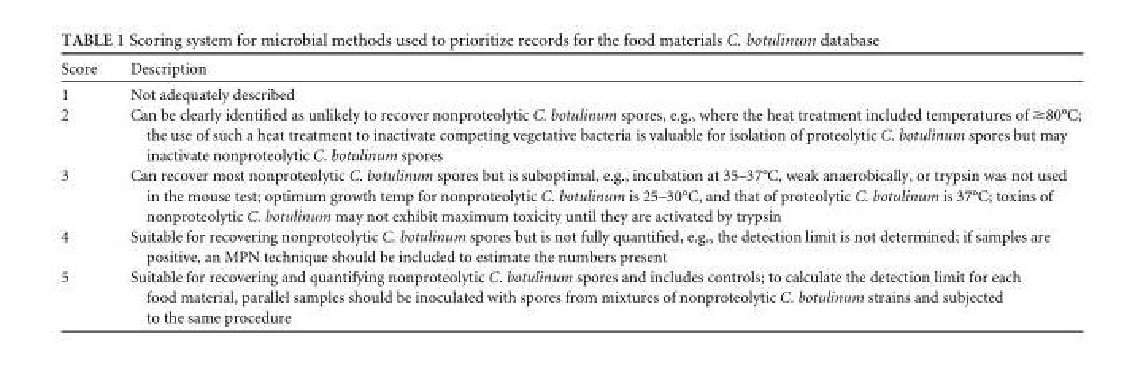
<table><thead><tr><td>Score</td><td>Description</td></tr></thead><tbody><tr><td>1</td><td>Not adequately described</td></tr><tr><td>2</td><td>Can be clearly identified as unlikely to recover nonproteolytic C. botulinum spores, e.g., where the heat treatment included temperatures of ≥80°C; the use of such a heat treatment to inactivate competing vegetative bacteria is valuable for isolation of proteolytic C. botulinum spores but may inactivate nonproteolytic C. botulinum spores</td></tr><tr><td>3</td><td>Can recover most nonproteolytic C. botulinum spores but is suboptimal, e.g., incubation at 35–37°C, weak anaerobically, or trypsin was not used in the mouse test; optimum growth temp for nonproteolytic C. botulinum is 25–30°C, and that of proteolytic C. botulinum is 37°C; toxins of nonproteolytic C. botulinum may not exhibit maximum toxicity until they are activated by trypsin</td></tr><tr><td>4</td><td>Suitable for recovering nonproteolytic C. botulinum spores but is not fully quantified, e.g., the detection limit is not determined; if samples are positive, an MPN technique should be included to estimate the numbers present</td></tr><tr><td>5</td><td>Suitable for recovering and quantifying nonproteolytic C. botulinum spores and includes controls; to calculate the detection limit for each food material, parallel samples should be inoculated with spores from mixtures of nonproteolytic C. botulinum strains and subjected to the same procedure</td></tr></tbody></table>